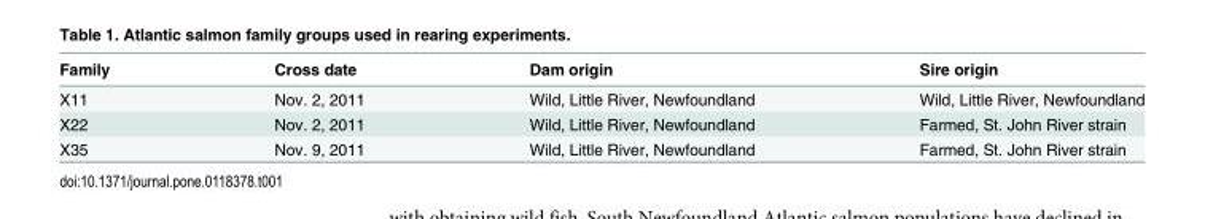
<table><thead><tr><td>Family</td><td>Cross date</td><td>Dam origin</td><td>Sire origin</td></tr></thead><tbody><tr><td>X11</td><td>Nov. 2, 2011</td><td>Wild, Little River, Newfoundland</td><td>Wild, Little River, Newfoundland</td></tr><tr><td>X22</td><td>Nov. 2, 2011</td><td>Wild, Little River, Newfoundland</td><td>Farmed, St. John River strain</td></tr><tr><td>X35</td><td>Nov. 9, 2011</td><td>Wild, Little River, Newfoundland</td><td>Farmed, St. John River strain</td></tr></tbody></table>